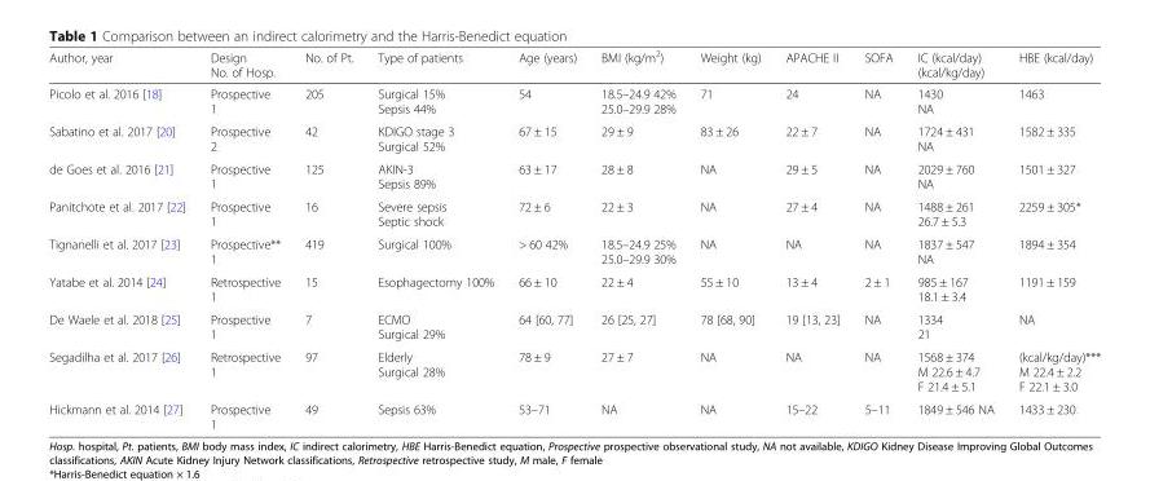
<table><thead><tr><td>Author, year</td><td>Design No. of Hosp.</td><td>No. of Pt.</td><td>Type of patients</td><td>Age (years)</td><td>BMI (kg/m<sup>2</sup>)</td><td>Weight (kg)</td><td>APACHE II</td><td>SOFA</td><td>IC (kcal/day) (kcal/kg/day)</td><td>HBE (kcal/day)</td></tr></thead><tbody><tr><td>Picolo et al. 2016 [18]</td><td>Prospective 1</td><td>205</td><td>Surgical 15% Sepsis 44%</td><td>54</td><td>18.5–24.9 42% 25.0–29.9 28%</td><td>71</td><td>24</td><td>NA</td><td>1430 NA</td><td>1463</td></tr><tr><td>Sabatino et al. 2017 [20]</td><td>Prospective 2</td><td>42</td><td>KDIGO stage 3 Surgical 52%</td><td>67 ± 15</td><td>29 ± 9</td><td>83 ± 26</td><td>22 ± 7</td><td>NA</td><td>1724 ± 431 NA</td><td>1582 ± 335</td></tr><tr><td>de Goes et al. 2016 [21]</td><td>Prospective 1</td><td>125</td><td>AKIN-3 Sepsis 89%</td><td>63 ± 17</td><td>28 ± 8</td><td>NA</td><td>29 ± 5</td><td>NA</td><td>2029 ± 760 NA</td><td>1501 ± 327</td></tr><tr><td>Panitchote et al. 2017 [22]</td><td>Prospective 1</td><td>16</td><td>Severe sepsis Septic shock</td><td>72 ± 6</td><td>22 ± 3</td><td>NA</td><td>27 ± 4</td><td>NA</td><td>1488 ± 261 26.7 ± 5.3</td><td>2259 ± 305*</td></tr><tr><td>Tignanelli et al. 2017 [23]</td><td>Prospective** 1</td><td>419</td><td>Surgical 100%</td><td>&gt; 60 42%</td><td>18.5–24.9 25% 25.0–29.9 30%</td><td>NA</td><td>NA</td><td>NA</td><td>1837 ± 547 NA</td><td>1894 ± 354</td></tr><tr><td>Yatabe et al. 2014 [24]</td><td>Retrospective 1</td><td>15</td><td>Esophagectomy 100%</td><td>66 ± 10</td><td>22 ± 4</td><td>55 ± 10</td><td>13 ± 4</td><td>2 ± 1</td><td>985 ± 167 18.1 ± 3.4</td><td>1191 ± 159</td></tr><tr><td>De Waele et al. 2018 [25]</td><td>Prospective 1</td><td>7</td><td>ECMO Surgical 29%</td><td>64 [60, 77]</td><td>26 [25, 27]</td><td>78 [68, 90]</td><td>19 [13, 23]</td><td>NA</td><td>1334 21</td><td>NA</td></tr><tr><td>Segadilha et al. 2017 [26]</td><td>Retrospective 1</td><td>97</td><td>Elderly Surgical 28%</td><td>78 ± 9</td><td>27 ± 7</td><td>NA</td><td>NA</td><td>NA</td><td>1568 ± 374 M 22.6 ± 4.7 F 21.4 ± 5.1</td><td>(kcal/kg/day)*** M 22.4 ± 2.2 F 22.1 ± 3.0</td></tr><tr><td>Hickmann et al. 2014 [27]</td><td>Prospective 1</td><td>49</td><td>Sepsis 63%</td><td>53–71</td><td>NA</td><td>NA</td><td>15–22</td><td>5–11</td><td>1849 ± 546 NA</td><td>1433 ± 230</td></tr></tbody></table>